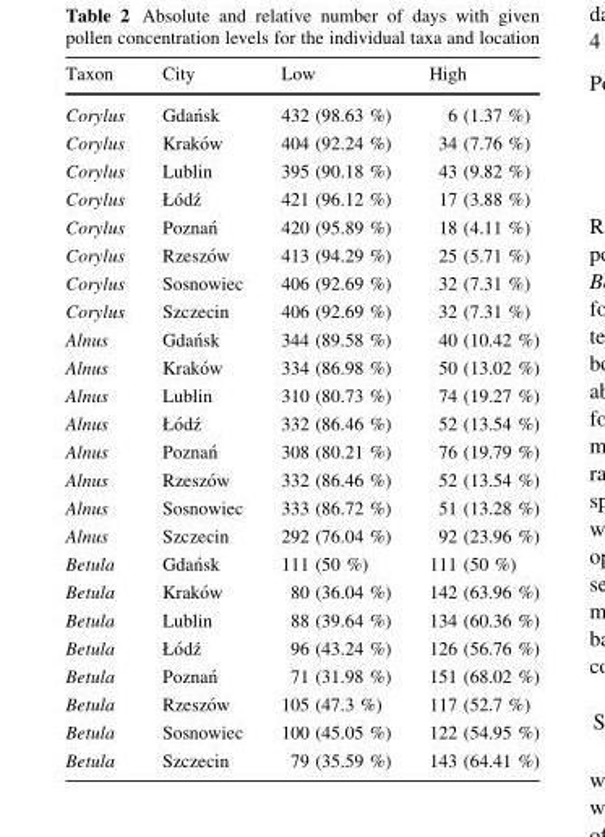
<table><thead><tr><td>Taxon</td><td>City</td><td>Low</td><td>High</td></tr></thead><tbody><tr><td>Corylus</td><td>Gdan´sk</td><td>432 (98.63 %)</td><td>6 (1.37 %)</td></tr><tr><td>Corylus</td><td>Krako´w</td><td>404 (92.24 %)</td><td>34 (7.76 %)</td></tr><tr><td>Corylus</td><td>Lublin</td><td>395 (90.18 %)</td><td>43 (9.82 %)</td></tr><tr><td>Corylus</td><td>Ło´dz´</td><td>421 (96.12 %)</td><td>17 (3.88 %)</td></tr><tr><td>Corylus</td><td>Poznan´</td><td>420 (95.89 %)</td><td>18 (4.11 %)</td></tr><tr><td>Corylus</td><td>Rzeszo´w</td><td>413 (94.29 %)</td><td>25 (5.71 %)</td></tr><tr><td>Corylus</td><td>Sosnowiec</td><td>406 (92.69 %)</td><td>32 (7.31 %)</td></tr><tr><td>Corylus</td><td>Szczecin</td><td>406 (92.69 %)</td><td>32 (7.31 %)</td></tr><tr><td>Alnus</td><td>Gdan´sk</td><td>344 (89.58 %)</td><td>40 (10.42 %)</td></tr><tr><td>Alnus</td><td>Krako´w</td><td>334 (86.98 %)</td><td>50 (13.02 %)</td></tr><tr><td>Alnus</td><td>Lublin</td><td>310 (80.73 %)</td><td>74 (19.27 %)</td></tr><tr><td>Alnus</td><td>Ło´dz´</td><td>332 (86.46 %)</td><td>52 (13.54 %)</td></tr><tr><td>Alnus</td><td>Poznan´</td><td>308 (80.21 %)</td><td>76 (19.79 %)</td></tr><tr><td>Alnus</td><td>Rzeszo´w</td><td>332 (86.46 %)</td><td>52 (13.54 %)</td></tr><tr><td>Alnus</td><td>Sosnowiec</td><td>333 (86.72 %)</td><td>51 (13.28 %)</td></tr><tr><td>Alnus</td><td>Szczecin</td><td>292 (76.04 %)</td><td>92 (23.96 %)</td></tr><tr><td>Betula</td><td>Gdan´sk</td><td>111 (50 %)</td><td>111 (50 %)</td></tr><tr><td>Betula</td><td>Krako´w</td><td>80 (36.04 %)</td><td>142 (63.96 %)</td></tr><tr><td>Betula</td><td>Lublin</td><td>88 (39.64 %)</td><td>134 (60.36 %)</td></tr><tr><td>Betula</td><td>Ło´dz´</td><td>96 (43.24 %)</td><td>126 (56.76 %)</td></tr><tr><td>Betula</td><td>Poznan´</td><td>71 (31.98 %)</td><td>151 (68.02 %)</td></tr><tr><td>Betula</td><td>Rzeszo´w</td><td>105 (47.3 %)</td><td>117 (52.7 %)</td></tr><tr><td>Betula</td><td>Sosnowiec</td><td>100 (45.05 %)</td><td>122 (54.95 %)</td></tr><tr><td>Betula</td><td>Szczecin</td><td>79 (35.59 %)</td><td>143 (64.41 %)</td></tr></tbody></table>